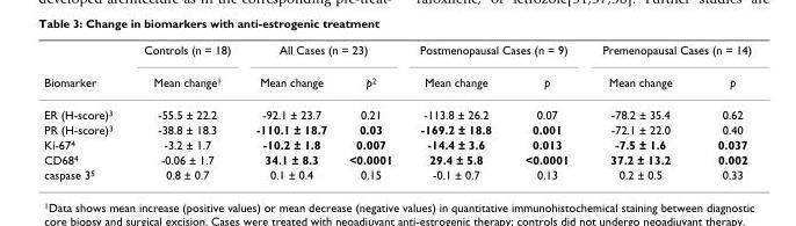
<table><thead><tr><td rowspan="2">Biomarker</td><td rowspan="2">Controls (n = 18) Mean change<sup>1</sup></td><td colspan="2">All Cases (n = 23)</td><td colspan="2">Postmenopausal Cases (n = 9)</td><td colspan="2">Premenopausal Cases (n = 14)</td></tr><tr><td>Mean change</td><td>p<sup>2</sup></td><td>Mean change</td><td>p</td><td>Mean change</td><td>p</td></tr></thead><tbody><tr><td>ER (H-score)<sup>3</sup></td><td>-55.5 ± 22.2</td><td>-92.1 ± 23.7</td><td>0.21</td><td>-113.8 ± 26.2</td><td>0.07</td><td>-78.2 ± 35.4</td><td>0.62</td></tr><tr><td>PR (H-score)<sup>3</sup></td><td>-38.8 ± 18.3</td><td>-110.1 ± 18.7</td><td>0.03</td><td>-169.2 ± 18.8</td><td>0.001</td><td>-72.1 ± 22.0</td><td>0.40</td></tr><tr><td>Ki-67<sup>4</sup></td><td>-3.2 ± 1.7</td><td>-10.2 ± 1.8</td><td>0.007</td><td>-14.4 ± 3.6</td><td>0.013</td><td>-7.5 ± 1.6</td><td>0.037</td></tr><tr><td>CD68<sup>4</sup></td><td>-0.06 ± 1.7</td><td>34.1 ± 8.3</td><td>&lt;0.0001</td><td>29.4 ± 5.8</td><td>&lt;0.0001</td><td>37.2 ± 13.2</td><td>0.002</td></tr><tr><td>caspase 3<sup>5</sup></td><td>0.8 ± 0.7</td><td>0.1 ± 0.4</td><td>0.15</td><td>-0.1 ± 0.7</td><td>0.13</td><td>0.2 ± 0.5</td><td>0.33</td></tr></tbody></table>